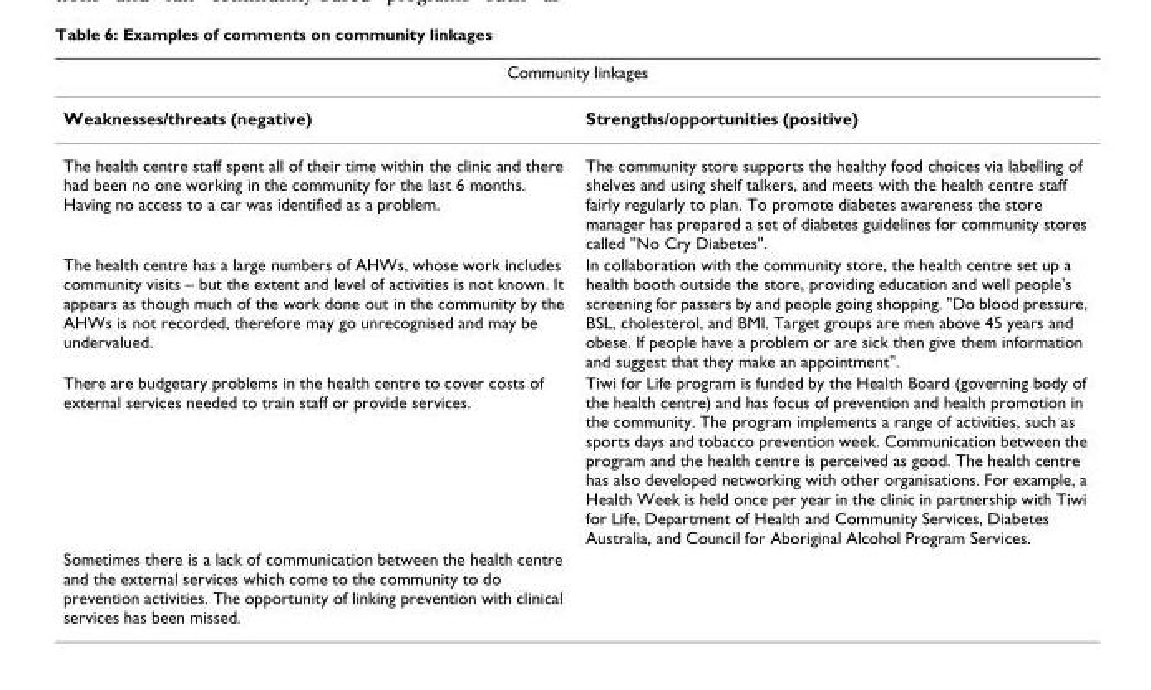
<table><thead><tr><td colspan="2">Community linkages</td></tr><tr><td>Weaknesses/threats (negative)</td><td>Strengths/opportunities (positive)</td></tr></thead><tbody><tr><td>The health centre staff spent all of their time within the clinic and there had been no one working in the community for the last 6 months. Having no access to a car was identified as a problem.</td><td>The community store supports the healthy food choices via labelling of shelves and using shelf talkers, and meets with the health centre staff fairly regularly to plan. To promote diabetes awareness the store manager has prepared a set of diabetes guidelines for community stores called &quot;No Cry Diabetes&quot;.</td></tr><tr><td>The health centre has a large numbers of AHWs, whose work includes community visits – but the extent and level of activities is not known. It appears as though much of the work done out in the community by the AHWs is not recorded, therefore may go unrecognised and may be undervalued.</td><td>In collaboration with the community store, the health centre set up a health booth outside the store, providing education and well people&#x27;s screening for passers by and people going shopping. &quot;Do blood pressure, BSL, cholesterol, and BMI. Target groups are men above 45 years and obese. If people have a problem or are sick then give them information and suggest that they make an appointment&quot;.</td></tr><tr><td>There are budgetary problems in the health centre to cover costs of external services needed to train staff or provide services.</td><td>Tiwi for Life program is funded by the Health Board (governing body of the health centre) and has focus of prevention and health promotion in the community. The program implements a range of activities, such as sports days and tobacco prevention week. Communication between the program and the health centre is perceived as good. The health centre has also developed networking with other organisations. For example, a Health Week is held once per year in the clinic in partnership with Tiwi for Life, Department of Health and Community Services, Diabetes Australia, and Council for Aboriginal Alcohol Program Services.</td></tr><tr><td>Sometimes there is a lack of communication between the health centre and the external services which come to the community to do prevention activities. The opportunity of linking prevention with clinical services has been missed.</td><td></td></tr></tbody></table>